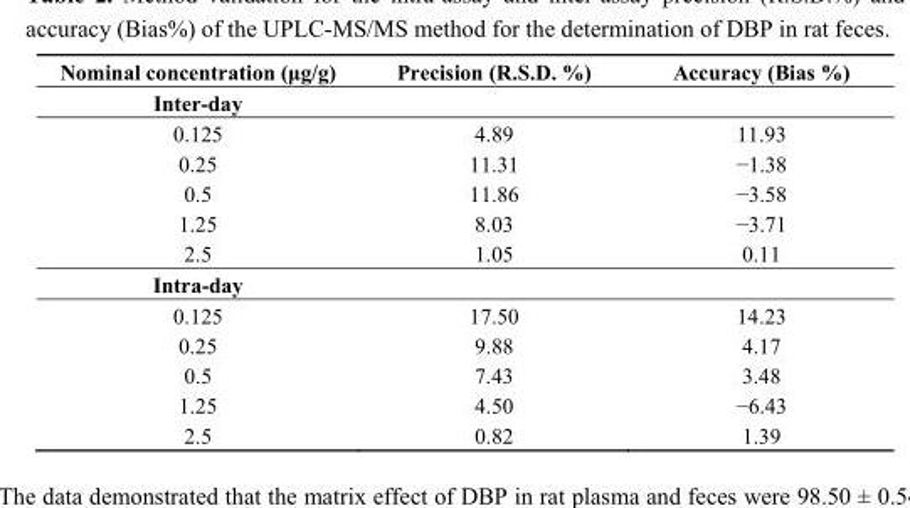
<table><thead><tr><td>Nominal concentration (μg/g)</td><td>Precision (R.S.D. %)</td><td>Accuracy (Bias %)</td></tr></thead><tbody><tr><td colspan="3">Inter-day</td></tr><tr><td>0.125</td><td>4.89</td><td>11.93</td></tr><tr><td>0.25</td><td>11.31</td><td>−1.38</td></tr><tr><td>0.5</td><td>11.86</td><td>−3.58</td></tr><tr><td>1.25</td><td>8.03</td><td>−3.71</td></tr><tr><td>2.5</td><td>1.05</td><td>0.11</td></tr><tr><td colspan="3">Intra-day</td></tr><tr><td>0.125</td><td>17.50</td><td>14.23</td></tr><tr><td>0.25</td><td>9.88</td><td>4.17</td></tr><tr><td>0.5</td><td>7.43</td><td>3.48</td></tr><tr><td>1.25</td><td>4.50</td><td>−6.43</td></tr><tr><td>2.5</td><td>0.82</td><td>1.39</td></tr></tbody></table>